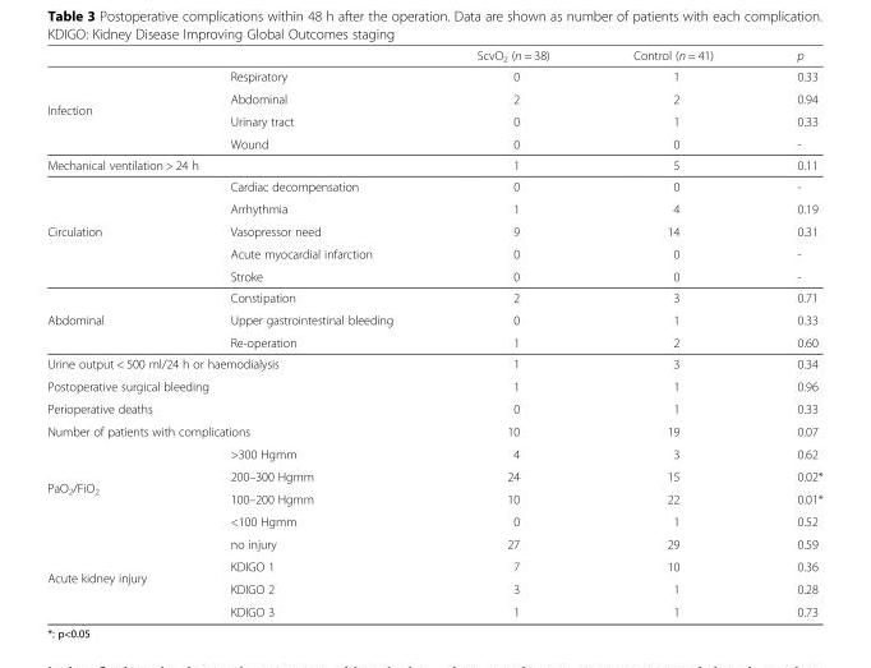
<table><thead><tr><td></td><td></td><td>ScvO<sub>2</sub> (n = 38)</td><td>Control (n = 41)</td><td>p</td></tr></thead><tbody><tr><td rowspan="4">Infection</td><td>Respiratory</td><td>0</td><td>1</td><td>0.33</td></tr><tr><td>Abdominal</td><td>2</td><td>2</td><td>0.94</td></tr><tr><td>Urinary tract</td><td>0</td><td>1</td><td>0.33</td></tr><tr><td>Wound</td><td>0</td><td>0</td><td>-</td></tr><tr><td colspan="2">Mechanical ventilation &gt; 24 h</td><td>1</td><td>5</td><td>0.11</td></tr><tr><td rowspan="5">Circulation</td><td>Cardiac decompensation</td><td>0</td><td>0</td><td>-</td></tr><tr><td>Arrhythmia</td><td>1</td><td>4</td><td>0.19</td></tr><tr><td>Vasopressor need</td><td>9</td><td>14</td><td>0.31</td></tr><tr><td>Acute myocardial infarction</td><td>0</td><td>0</td><td>-</td></tr><tr><td>Stroke</td><td>0</td><td>0</td><td>-</td></tr><tr><td rowspan="3">Abdominal</td><td>Constipation</td><td>2</td><td>3</td><td>0.71</td></tr><tr><td>Upper gastrointestinal bleeding</td><td>0</td><td>1</td><td>0.33</td></tr><tr><td>Re-operation</td><td>1</td><td>2</td><td>0.60</td></tr><tr><td colspan="2">Urine output &lt; 500 ml/24 h or haemodialysis</td><td>1</td><td>3</td><td>0.34</td></tr><tr><td colspan="2">Postoperative surgical bleeding</td><td>1</td><td>1</td><td>0.96</td></tr><tr><td colspan="2">Perioperative deaths</td><td>0</td><td>1</td><td>0.33</td></tr><tr><td colspan="2">Number of patients with complications</td><td>10</td><td>19</td><td>0.07</td></tr><tr><td rowspan="4">PaO<sub>2</sub>/FiO<sub>2</sub></td><td>&gt;300 Hgmm</td><td>4</td><td>3</td><td>0.62</td></tr><tr><td>200–300 Hgmm</td><td>24</td><td>15</td><td>0.02*</td></tr><tr><td>100–200 Hgmm</td><td>10</td><td>22</td><td>0.01*</td></tr><tr><td>&lt;100 Hgmm</td><td>0</td><td>1</td><td>0.52</td></tr><tr><td rowspan="4">Acute kidney injury</td><td>no injury</td><td>27</td><td>29</td><td>0.59</td></tr><tr><td>KDIGO 1</td><td>7</td><td>10</td><td>0.36</td></tr><tr><td>KDIGO 2</td><td>3</td><td>1</td><td>0.28</td></tr><tr><td>KDIGO 3</td><td>1</td><td>1</td><td>0.73</td></tr></tbody></table>